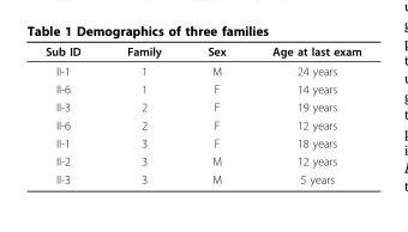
<table><thead><tr><td>Sub ID</td><td>Family</td><td>Sex</td><td>Age at last exam</td></tr></thead><tbody><tr><td>II-1</td><td>1</td><td>M</td><td>24 years</td></tr><tr><td>II-6</td><td>1</td><td>F</td><td>14 years</td></tr><tr><td>II-3</td><td>2</td><td>F</td><td>19 years</td></tr><tr><td>II-6</td><td>2</td><td>F</td><td>12 years</td></tr><tr><td>II-1</td><td>3</td><td>F</td><td>18 years</td></tr><tr><td>II-2</td><td>3</td><td>M</td><td>12 years</td></tr><tr><td>II-3</td><td>3</td><td>M</td><td>5 years</td></tr></tbody></table>